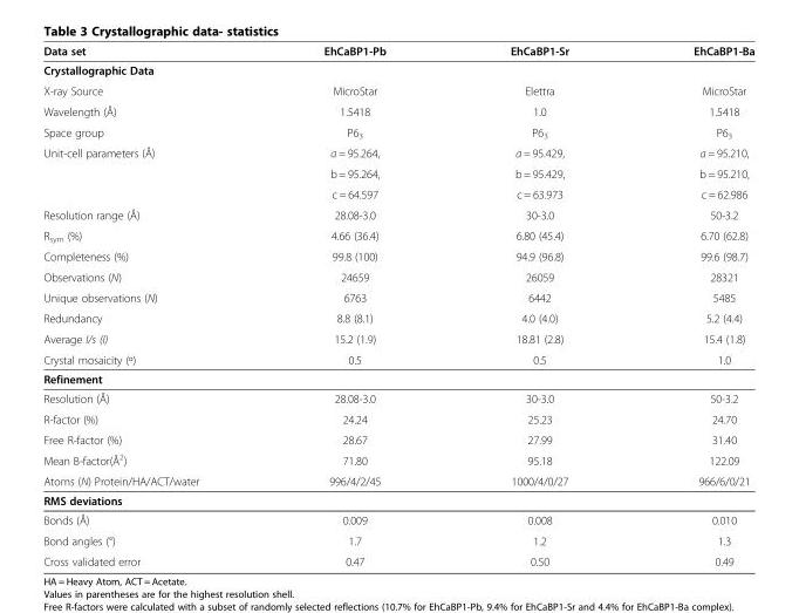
<table><thead><tr><td>Data set</td><td>EhCaBP1-Pb</td><td>EhCaBP1-Sr</td><td>EhCaBP1-Ba</td></tr></thead><tbody><tr><td colspan="4">Crystallographic Data</td></tr><tr><td>X-ray Source</td><td>MicroStar</td><td>Elettra</td><td>MicroStar</td></tr><tr><td>Wavelength (Å)</td><td>1.5418</td><td>1.0</td><td>1.5418</td></tr><tr><td>Space group</td><td>P6<sub>3</sub></td><td>P6<sub>3</sub></td><td>P6<sub>3</sub></td></tr><tr><td rowspan="3">Unit-cell parameters (Å)</td><td>a = 95.264,</td><td>a = 95.429,</td><td>a = 95.210,</td></tr><tr><td>b = 95.264,</td><td>b = 95.429,</td><td>b = 95.210,</td></tr><tr><td>c = 64.597</td><td>c = 63.973</td><td>c = 62.986</td></tr><tr><td>Resolution range (Å)</td><td>28.08-3.0</td><td>30-3.0</td><td>50-3.2</td></tr><tr><td>R<sub>sym</sub> (%)</td><td>4.66 (36.4)</td><td>6.80 (45.4)</td><td>6.70 (62.8)</td></tr><tr><td>Completeness (%)</td><td>99.8 (100)</td><td>94.9 (96.8)</td><td>99.6 (98.7)</td></tr><tr><td>Observations (N)</td><td>24659</td><td>26059</td><td>28321</td></tr><tr><td>Unique observations (N)</td><td>6763</td><td>6442</td><td>5485</td></tr><tr><td>Redundancy</td><td>8.8 (8.1)</td><td>4.0 (4.0)</td><td>5.2 (4.4)</td></tr><tr><td>Average I/s (I)</td><td>15.2 (1.9)</td><td>18.81 (2.8)</td><td>15.4 (1.8)</td></tr><tr><td>Crystal mosaicity (º)</td><td>0.5</td><td>0.5</td><td>1.0</td></tr><tr><td colspan="4">Refinement</td></tr><tr><td>Resolution (Å)</td><td>28.08-3.0</td><td>30-3.0</td><td>50-3.2</td></tr><tr><td>R-factor (%)</td><td>24.24</td><td>25.23</td><td>24.70</td></tr><tr><td>Free R-factor (%)</td><td>28.67</td><td>27.99</td><td>31.40</td></tr><tr><td>Mean B-factor(Å<sup>2</sup>)</td><td>71.80</td><td>95.18</td><td>122.09</td></tr><tr><td>Atoms (N) Protein/HA/ACT/water</td><td>996/4/2/45</td><td>1000/4/0/27</td><td>966/6/0/21</td></tr><tr><td colspan="4">RMS deviations</td></tr><tr><td>Bonds (Å)</td><td>0.009</td><td>0.008</td><td>0.010</td></tr><tr><td>Bond angles (°)</td><td>1.7</td><td>1.2</td><td>1.3</td></tr><tr><td>Cross validated error</td><td>0.47</td><td>0.50</td><td>0.49</td></tr></tbody></table>